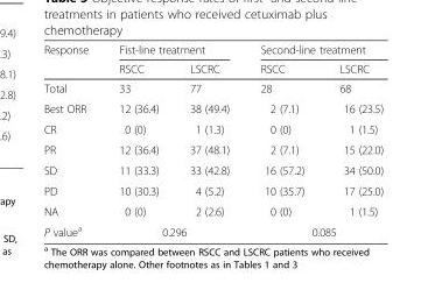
<table><thead><tr><td rowspan="2">Response</td><td colspan="2">Fist-line treatment</td><td colspan="2">Second-line treatment</td></tr><tr><td>RSCC</td><td>LSCRC</td><td>RSCC</td><td>LSCRC</td></tr></thead><tbody><tr><td>Total</td><td>33</td><td>77</td><td>28</td><td>68</td></tr><tr><td>Best ORR</td><td>12 (36.4)</td><td>38 (49.4)</td><td>2 (7.1)</td><td>16 (23.5)</td></tr><tr><td>CR</td><td>0 (0)</td><td>1 (1.3)</td><td>0 (0)</td><td>1 (1.5)</td></tr><tr><td>PR</td><td>12 (36.4)</td><td>37 (48.1)</td><td>2 (7.1)</td><td>15 (22.0)</td></tr><tr><td>SD</td><td>11 (33.3)</td><td>33 (42.8)</td><td>16 (57.2)</td><td>34 (50.0)</td></tr><tr><td>PD</td><td>10 (30.3)</td><td>4 (5.2)</td><td>10 (35.7)</td><td>17 (25.0)</td></tr><tr><td>NA</td><td>0 (0)</td><td>2 (2.6)</td><td>0 (0)</td><td>1 (1.5)</td></tr><tr><td>P value<sup>a</sup></td><td colspan="2">0.296</td><td colspan="2">0.085</td></tr></tbody></table>